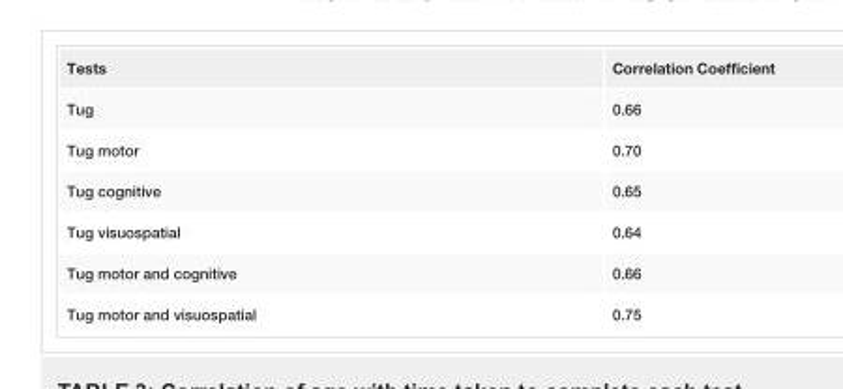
<table><tbody><tr><td>Tests</td><td>Correlation Coefficient</td></tr><tr><td>Tug</td><td>0.66</td></tr><tr><td>Tug motor</td><td>0.70</td></tr><tr><td>Tug cognitive</td><td>0.65</td></tr><tr><td>Tug visuospatial</td><td>0.64</td></tr><tr><td>Tug motor and cognitive</td><td>0.66</td></tr><tr><td>Tug motor and visuospatial</td><td>0.75</td></tr></tbody></table>